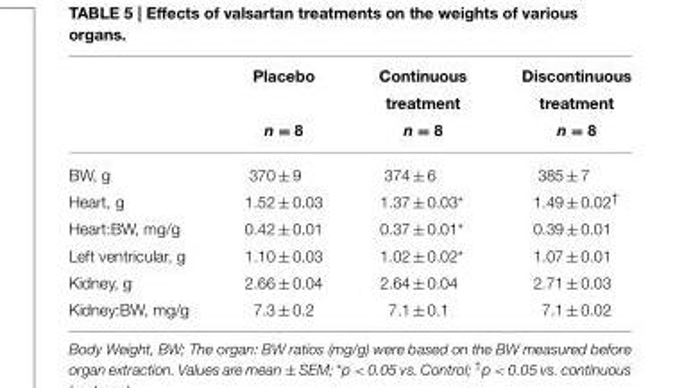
<table><thead><tr><td></td><td>Placebo n = 8</td><td>Continuous treatment n = 8</td><td>Discontinuous treatment n = 8</td></tr></thead><tbody><tr><td>BW, g</td><td>370 ± 9</td><td>374 ± 6</td><td>385 ± 7</td></tr><tr><td>Heart, g</td><td>1.52 ± 0.03</td><td>1.37 ± 0.03*</td><td>1.49 ± 0.02<sup>†</sup></td></tr><tr><td>Heart:BW, mg/g</td><td>0.42 ± 0.01</td><td>0.37 ± 0.01*</td><td>0.39 ± 0.01</td></tr><tr><td>Left ventricular, g</td><td>1.10 ± 0.03</td><td>1.02 ± 0.02*</td><td>1.07 ± 0.01</td></tr><tr><td>Kidney, g</td><td>2.66 ± 0.04</td><td>2.64 ± 0.04</td><td>2.71 ± 0.03</td></tr><tr><td>Kidney:BW, mg/g</td><td>7.3 ± 0.2</td><td>7.1 ± 0.1</td><td>7.1 ± 0.02</td></tr></tbody></table>